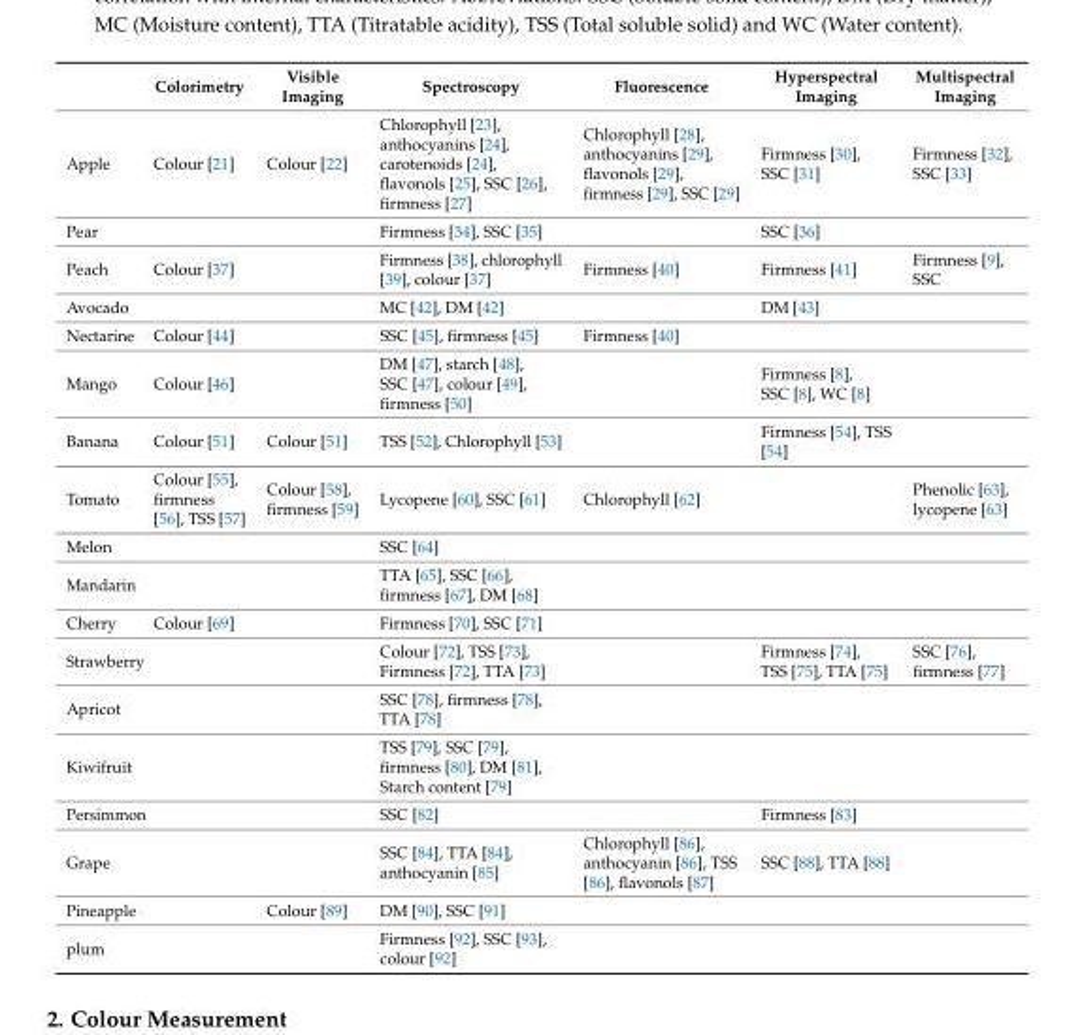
<table><thead><tr><td></td><td>Colorimetry</td><td>Visible Imaging</td><td>Spectroscopy</td><td>Fluorescence</td><td>Hyperspectral Imaging</td><td>Multispectral Imaging</td></tr></thead><tbody><tr><td>Apple</td><td>Colour [21]</td><td>Colour [22]</td><td>Chlorophyll [23], anthocyanins [24], carotenoids [24], flavonols [25], SSC [26], firmness [27]</td><td>Chlorophyll [28], anthocyanins [29], flavonols [29], firmness [29], SSC [29]</td><td>Firmness [30], SSC [31]</td><td>Firmness [32], SSC [33]</td></tr><tr><td>Pear</td><td></td><td></td><td>Firmness [34], SSC [35]</td><td></td><td>SSC [36]</td><td></td></tr><tr><td>Peach</td><td>Colour [37]</td><td></td><td>Firmness [38], chlorophyll [39], colour [37]</td><td>Firmness [40]</td><td>Firmness [41]</td><td>Firmness [9], SSC</td></tr><tr><td>Avocado</td><td></td><td></td><td>MC [42], DM [42]</td><td></td><td>DM [43]</td><td></td></tr><tr><td>Nectarine</td><td>Colour [44]</td><td></td><td>SSC [45], firmness [45]</td><td>Firmness [40]</td><td></td><td></td></tr><tr><td>Mango</td><td>Colour [46]</td><td></td><td>DM [47], starch [48], SSC [47], colour [49], firmness [50]</td><td></td><td>Firmness [8], SSC [8], WC [8]</td><td></td></tr><tr><td>Banana</td><td>Colour [51]</td><td>Colour [51]</td><td>TSS [52], Chlorophyll [53]</td><td></td><td>Firmness [54], TSS [54]</td><td></td></tr><tr><td>Tomato</td><td>Colour [55], firmness [56], TSS [57]</td><td>Colour [58], firmness [59]</td><td>Lycopene [60], SSC [61]</td><td>Chlorophyll [62]</td><td></td><td>Phenolic [63], lycopene [63]</td></tr><tr><td>Melon</td><td></td><td></td><td>SSC [64]</td><td></td><td></td><td></td></tr><tr><td>Mandarin</td><td></td><td></td><td>TTA [65], SSC [66], firmness [67], DM [68]</td><td></td><td></td><td></td></tr><tr><td>Cherry</td><td>Colour [69]</td><td></td><td>Firmness [70], SSC [71]</td><td></td><td></td><td></td></tr><tr><td>Strawberry</td><td></td><td></td><td>Colour [72], TSS [73], Firmness [72], TTA [73]</td><td></td><td>Firmness [74], TSS [75], TTA [75]</td><td>SSC [76], firmness [77]</td></tr><tr><td>Apricot</td><td></td><td></td><td>SSC [78], firmness [78], TTA [78]</td><td></td><td></td><td></td></tr><tr><td>Kiwifruit</td><td></td><td></td><td>TSS [79], SSC [79], firmness [80], DM [81], Starch content [79]</td><td></td><td></td><td></td></tr><tr><td>Persimmon</td><td></td><td></td><td>SSC [82]</td><td></td><td>Firmness [83]</td><td></td></tr><tr><td>Grape</td><td></td><td></td><td>SSC [84], TTA [84], anthocyanin [85]</td><td>Chlorophyll [86], anthocyanin [86], TSS [86], flavonols [87]</td><td>SSC [88], TTA [88]</td><td></td></tr><tr><td>Pineapple</td><td></td><td>Colour [89]</td><td>DM [90], SSC [91]</td><td></td><td></td><td></td></tr><tr><td>plum</td><td></td><td></td><td>Firmness [92], SSC [93], colour [92]</td><td></td><td></td><td></td></tr></tbody></table>